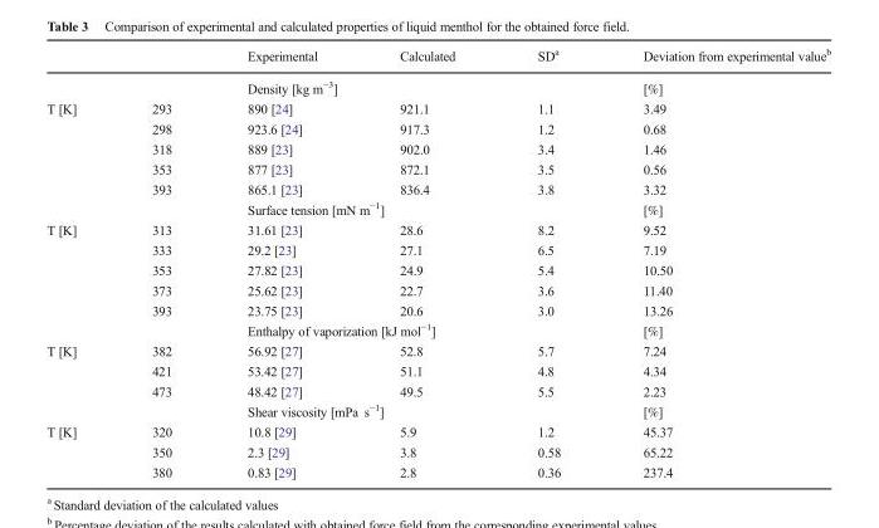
<table><thead><tr><td></td><td></td><td>Experimental</td><td>Calculated</td><td>SD<sup>a</sup></td><td>Deviation from experimental value<sup>b</sup></td></tr></thead><tbody><tr><td colspan="2"></td><td colspan="3">Density [kg m<sup>−3</sup>]</td><td>[%]</td></tr><tr><td rowspan="5">T [K]</td><td>293</td><td>890 [24]</td><td>921.1</td><td>1.1</td><td>3.49</td></tr><tr><td>298</td><td>923.6 [24]</td><td>917.3</td><td>1.2</td><td>0.68</td></tr><tr><td>318</td><td>889 [23]</td><td>902.0</td><td>3.4</td><td>1.46</td></tr><tr><td>353</td><td>877 [23]</td><td>872.1</td><td>3.5</td><td>0.56</td></tr><tr><td>393</td><td>865.1 [23]</td><td>836.4</td><td>3.8</td><td>3.32</td></tr><tr><td colspan="2"></td><td colspan="3">Surface tension [mN m<sup>−1</sup>]</td><td>[%]</td></tr><tr><td rowspan="5">T [K]</td><td>313</td><td>31.61 [23]</td><td>28.6</td><td>8.2</td><td>9.52</td></tr><tr><td>333</td><td>29.2 [23]</td><td>27.1</td><td>6.5</td><td>7.19</td></tr><tr><td>353</td><td>27.82 [23]</td><td>24.9</td><td>5.4</td><td>10.50</td></tr><tr><td>373</td><td>25.62 [23]</td><td>22.7</td><td>3.6</td><td>11.40</td></tr><tr><td>393</td><td>23.75 [23]</td><td>20.6</td><td>3.0</td><td>13.26</td></tr><tr><td colspan="2"></td><td colspan="3">Enthalpy of vaporization [kJ mol<sup>−1</sup>]</td><td>[%]</td></tr><tr><td rowspan="4">T [K]</td><td>382</td><td>56.92 [27]</td><td>52.8</td><td>5.7</td><td>7.24</td></tr><tr><td>421</td><td>53.42 [27]</td><td>51.1</td><td>4.8</td><td>4.34</td></tr><tr><td>473</td><td>48.42 [27]</td><td>49.5</td><td>5.5</td><td>2.23</td></tr><tr><td></td><td colspan="3">Shear viscosity [mPa s<sup>−1</sup>]</td><td>[%]</td></tr><tr><td rowspan="3">T [K]</td><td>320</td><td>10.8 [29]</td><td>5.9</td><td>1.2</td><td>45.37</td></tr><tr><td>350</td><td>2.3 [29]</td><td>3.8</td><td>0.58</td><td>65.22</td></tr><tr><td>380</td><td>0.83 [29]</td><td>2.8</td><td>0.36</td><td>237.4</td></tr></tbody></table>